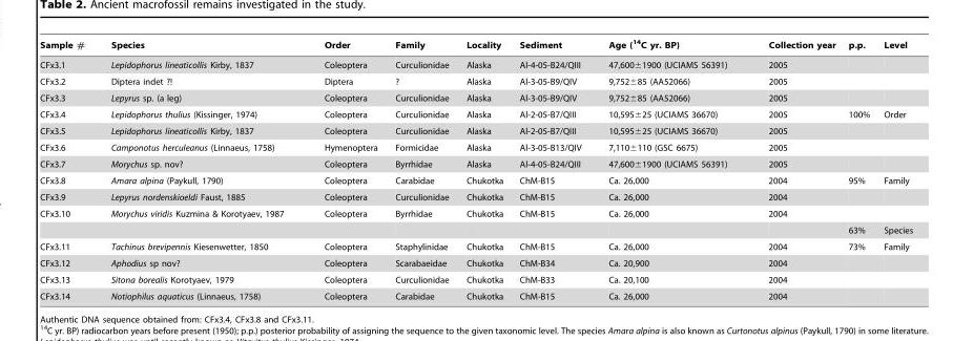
<table><thead><tr><td>Sample #</td><td>Species</td><td>Order</td><td>Family</td><td>Locality</td><td>Sediment</td><td>Age (<sup>14</sup>C yr. BP)</td><td>Collection year</td><td>p.p.</td><td>Level</td></tr></thead><tbody><tr><td>CFx3.1</td><td>Lepidophorus lineaticollis Kirby, 1837</td><td>Coleoptera</td><td>Curculionidae</td><td>Alaska</td><td>Al-4-05-B24/QIII</td><td>47,600±1900 (UCIAMS 56391)</td><td>2005</td><td></td><td></td></tr><tr><td>CFx3.2</td><td>Diptera indet ?!</td><td>Diptera</td><td>?</td><td>Alaska</td><td>Al-3-05-B9/QIV</td><td>9,752±85 (AA52066)</td><td>2005</td><td></td><td></td></tr><tr><td>CFx3.3</td><td>Lepyrus sp. (a leg)</td><td>Coleoptera</td><td>Curculionidae</td><td>Alaska</td><td>Al-3-05-B9/QIV</td><td>9,752±85 (AA52066)</td><td>2005</td><td></td><td></td></tr><tr><td>CFx3.4</td><td>Lepidophorus thulius (Kissinger, 1974)</td><td>Coleoptera</td><td>Curculionidae</td><td>Alaska</td><td>Al-2-05-B7/QIII</td><td>10,595±25 (UCIAMS 36670)</td><td>2005</td><td>100%</td><td>Order</td></tr><tr><td>CFx3.5</td><td>Lepidophorus lineaticollis Kirby, 1837</td><td>Coleoptera</td><td>Curculionidae</td><td>Alaska</td><td>Al-2-05-B7/QIII</td><td>10,595±25 (UCIAMS 36670)</td><td>2005</td><td></td><td></td></tr><tr><td>CFx3.6</td><td>Camponotus herculeanus (Linnaeus, 1758)</td><td>Hymenoptera</td><td>Formicidae</td><td>Alaska</td><td>Al-3-05-B13/QIV</td><td>7,110±110 (GSC 6675)</td><td>2005</td><td></td><td></td></tr><tr><td>CFx3.7</td><td>Morychus sp. nov?</td><td>Coleoptera</td><td>Byrrhidae</td><td>Alaska</td><td>Al-4-05-B24/QIII</td><td>47,600±1900 (UCIAMS 56391)</td><td>2005</td><td></td><td></td></tr><tr><td>CFx3.8</td><td>Amara alpina (Paykull, 1790)</td><td>Coleoptera</td><td>Carabidae</td><td>Chukotka</td><td>ChM-B15</td><td>Ca. 26,000</td><td>2004</td><td>95%</td><td>Family</td></tr><tr><td>CFx3.9</td><td>Lepyrus nordenskioeldi Faust, 1885</td><td>Coleoptera</td><td>Curculionidae</td><td>Chukotka</td><td>ChM-B15</td><td>Ca. 26,000</td><td>2004</td><td></td><td></td></tr><tr><td rowspan="2">CFx3.10</td><td>Morychus viridis Kuzmina &amp; Korotyaev, 1987</td><td>Coleoptera</td><td>Byrrhidae</td><td>Chukotka</td><td>ChM-B15</td><td>Ca. 26,000</td><td>2004</td><td></td><td></td></tr><tr><td></td><td></td><td></td><td></td><td></td><td></td><td></td><td>63%</td><td>Species</td></tr><tr><td>CFx3.11</td><td>Tachinus brevipennis Kiesenwetter, 1850</td><td>Coleoptera</td><td>Staphylinidae</td><td>Chukotka</td><td>ChM-B15</td><td>Ca. 26,000</td><td>2004</td><td>73%</td><td>Family</td></tr><tr><td>CFx3.12</td><td>Aphodius sp nov?</td><td>Coleoptera</td><td>Scarabaeidae</td><td>Chukotka</td><td>ChM-B34</td><td>Ca. 20,900</td><td>2004</td><td></td><td></td></tr><tr><td>CFx3.13</td><td>Sitona borealis Korotyaev, 1979</td><td>Coleoptera</td><td>Curculionidae</td><td>Chukotka</td><td>ChM-B33</td><td>Ca. 20,100</td><td>2004</td><td></td><td></td></tr><tr><td>CFx3.14</td><td>Notiophilus aquaticus (Linnaeus, 1758)</td><td>Coleoptera</td><td>Carabidae</td><td>Chukotka</td><td>ChM-B15</td><td>Ca. 26,000</td><td>2004</td><td></td><td></td></tr></tbody></table>